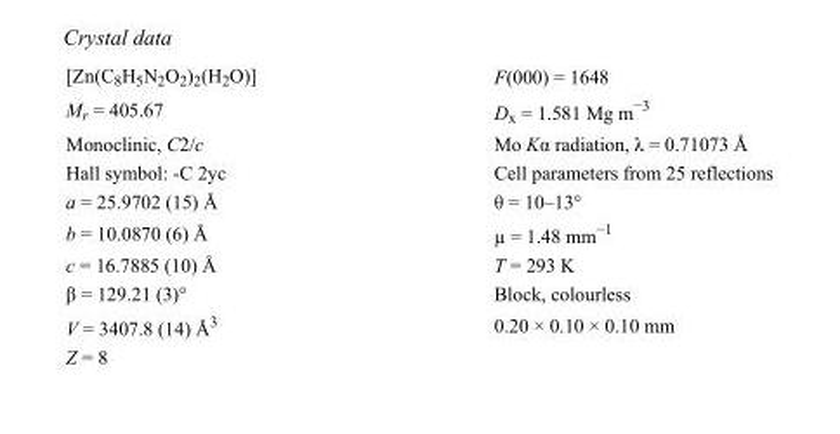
<table><tbody><tr><td>[Zn(C<sub>8</sub>H<sub>5</sub>N<sub>2</sub>O<sub>2</sub>)<sub>2</sub>(H<sub>2</sub>O)]</td><td>F(000) = 1648</td></tr><tr><td>M<sub>r</sub> = 405.67</td><td>D<sub>x</sub> = 1.581 Mg m<sup>−3</sup></td></tr><tr><td>Monoclinic, C2/c</td><td>Mo Kα radiation, λ = 0.71073 Å</td></tr><tr><td>Hall symbol: -C 2yc</td><td>Cell parameters from 25 reflections</td></tr><tr><td>a = 25.9702 (15) Å</td><td>θ = 10–13°</td></tr><tr><td>b = 10.0870 (6) Å</td><td>µ = 1.48 mm<sup>−1</sup></td></tr><tr><td>c = 16.7885 (10) Å</td><td>T = 293 K</td></tr><tr><td>β = 129.21 (3)°</td><td>Block, colourless</td></tr><tr><td>V = 3407.8 (14) Å<sup>3</sup></td><td>0.20 × 0.10 × 0.10 mm</td></tr><tr><td>Z = 8</td><td></td></tr></tbody></table>